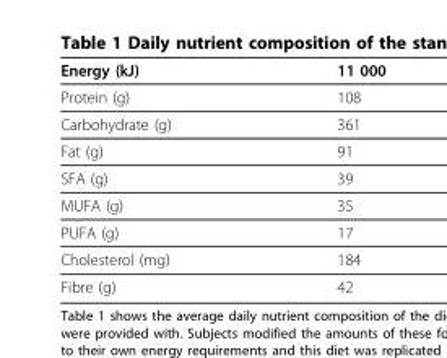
<table><thead><tr><td>Energy (kJ)</td><td>11 000</td></tr></thead><tbody><tr><td>Protein (g)</td><td>108</td></tr><tr><td>Carbohydrate (g)</td><td>361</td></tr><tr><td>Fat (g)</td><td>91</td></tr><tr><td>SFA (g)</td><td>39</td></tr><tr><td>MUFA (g)</td><td>35</td></tr><tr><td>PUFA (g)</td><td>17</td></tr><tr><td>Cholesterol (mg)</td><td>184</td></tr><tr><td>Fibre (g)</td><td>42</td></tr></tbody></table>